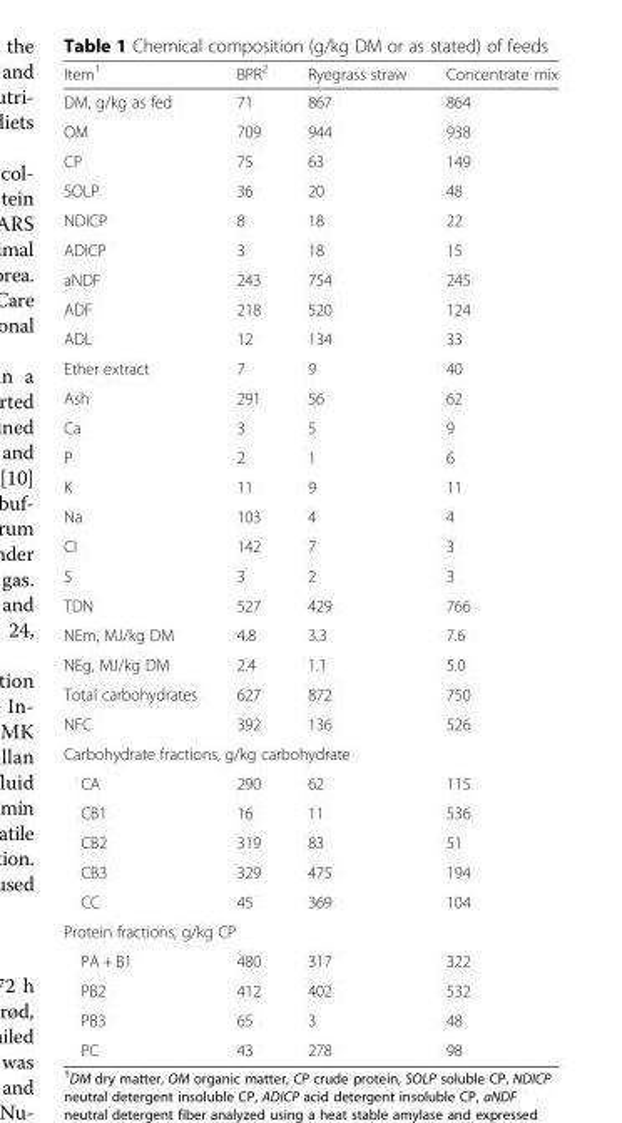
<table><thead><tr><td>Item<sup>1</sup></td><td>BPR<sup>2</sup></td><td>Ryegrass straw</td><td>Concentrate mix</td></tr></thead><tbody><tr><td>DM, g/kg as fed</td><td>71</td><td>867</td><td>864</td></tr><tr><td>OM</td><td>709</td><td>944</td><td>938</td></tr><tr><td>CP</td><td>75</td><td>63</td><td>149</td></tr><tr><td>SOLP</td><td>36</td><td>20</td><td>48</td></tr><tr><td>NDICP</td><td>8</td><td>18</td><td>22</td></tr><tr><td>ADICP</td><td>3</td><td>18</td><td>15</td></tr><tr><td>aNDF</td><td>243</td><td>754</td><td>245</td></tr><tr><td>ADF</td><td>218</td><td>520</td><td>124</td></tr><tr><td>ADL</td><td>12</td><td>134</td><td>33</td></tr><tr><td>Ether extract</td><td>7</td><td>9</td><td>40</td></tr><tr><td>Ash</td><td>291</td><td>56</td><td>62</td></tr><tr><td>Ca</td><td>3</td><td>5</td><td>9</td></tr><tr><td>P</td><td>2</td><td>1</td><td>6</td></tr><tr><td>K</td><td>11</td><td>9</td><td>11</td></tr><tr><td>Na</td><td>103</td><td>4</td><td>4</td></tr><tr><td>Cl</td><td>142</td><td>7</td><td>3</td></tr><tr><td>S</td><td>3</td><td>2</td><td>3</td></tr><tr><td>TDN</td><td>527</td><td>429</td><td>766</td></tr><tr><td>NEm, MJ/kg DM</td><td>4.8</td><td>3.3</td><td>7.6</td></tr><tr><td>NEg, MJ/kg DM</td><td>2.4</td><td>1.1</td><td>5.0</td></tr><tr><td>Total carbohydrates</td><td>627</td><td>872</td><td>750</td></tr><tr><td>NFC</td><td>392</td><td>136</td><td>526</td></tr><tr><td colspan="4">Carbohydrate fractions, g/kg carbohydrate</td></tr><tr><td>CA</td><td>290</td><td>62</td><td>115</td></tr><tr><td>CB1</td><td>16</td><td>11</td><td>536</td></tr><tr><td>CB2</td><td>319</td><td>83</td><td>51</td></tr><tr><td>CB3</td><td>329</td><td>475</td><td>194</td></tr><tr><td>CC</td><td>45</td><td>369</td><td>104</td></tr><tr><td colspan="4">Protein fractions, g/kg CP</td></tr><tr><td>PA + B1</td><td>480</td><td>317</td><td>322</td></tr><tr><td>PB2</td><td>412</td><td>402</td><td>532</td></tr><tr><td>PB3</td><td>65</td><td>3</td><td>48</td></tr><tr><td>PC</td><td>43</td><td>278</td><td>98</td></tr></tbody></table>